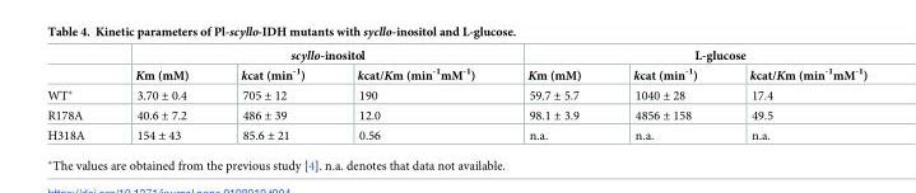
<table><thead><tr><td rowspan="2"></td><td colspan="3">scyllo-inositol</td><td colspan="3">L-glucose</td></tr><tr><td>Km (mM)</td><td>kcat (min<sup>-1</sup>)</td><td>kcat/Km (min<sup>-1</sup>mM<sup>-1</sup>)</td><td>Km (mM)</td><td>kcat (min<sup>-1</sup>)</td><td>kcat/Km (min<sup>-1</sup>mM<sup>-1</sup>)</td></tr></thead><tbody><tr><td>WT*</td><td>3.70 ± 0.4</td><td>705 ± 12</td><td>190</td><td>59.7 ± 5.7</td><td>1040 ± 28</td><td>17.4</td></tr><tr><td>R178A</td><td>40.6 ± 7.2</td><td>486 ± 39</td><td>12.0</td><td>98.1 ± 3.9</td><td>4856 ± 158</td><td>49.5</td></tr><tr><td>H318A</td><td>154 ± 43</td><td>85.6 ± 21</td><td>0.56</td><td>n.a.</td><td>n.a.</td><td>n.a.</td></tr></tbody></table>